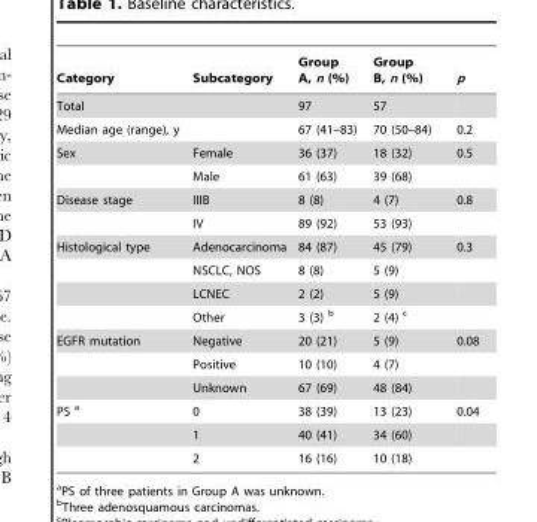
<table><thead><tr><td>Category</td><td>Subcategory</td><td>Group A, n (%)</td><td>Group B, n (%)</td><td>p</td></tr></thead><tbody><tr><td colspan="2">Total</td><td>97</td><td>57</td><td></td></tr><tr><td colspan="2">Median age (range), y</td><td>67 (41–83)</td><td>70 (50–84)</td><td>0.2</td></tr><tr><td rowspan="2">Sex</td><td>Female</td><td>36 (37)</td><td>18 (32)</td><td>0.5</td></tr><tr><td>Male</td><td>61 (63)</td><td>39 (68)</td><td></td></tr><tr><td rowspan="2">Disease stage</td><td>IIIB</td><td>8 (8)</td><td>4 (7)</td><td>0.8</td></tr><tr><td>IV</td><td>89 (92)</td><td>53 (93)</td><td></td></tr><tr><td rowspan="4">Histological type</td><td>Adenocarcinoma</td><td>84 (87)</td><td>45 (79)</td><td>0.3</td></tr><tr><td>NSCLC, NOS</td><td>8 (8)</td><td>5 (9)</td><td></td></tr><tr><td>LCNEC</td><td>2 (2)</td><td>5 (9)</td><td></td></tr><tr><td>Other</td><td>3 (3) b</td><td>2 (4) c</td><td></td></tr><tr><td rowspan="3">EGFR mutation</td><td>Negative</td><td>20 (21)</td><td>5 (9)</td><td>0.08</td></tr><tr><td>Positive</td><td>10 (10)</td><td>4 (7)</td><td></td></tr><tr><td>Unknown</td><td>67 (69)</td><td>48 (84)</td><td></td></tr><tr><td rowspan="3">PS a</td><td>0</td><td>38 (39)</td><td>13 (23)</td><td>0.04</td></tr><tr><td>1</td><td>40 (41)</td><td>34 (60)</td><td></td></tr><tr><td>2</td><td>16 (16)</td><td>10 (18)</td><td></td></tr></tbody></table>